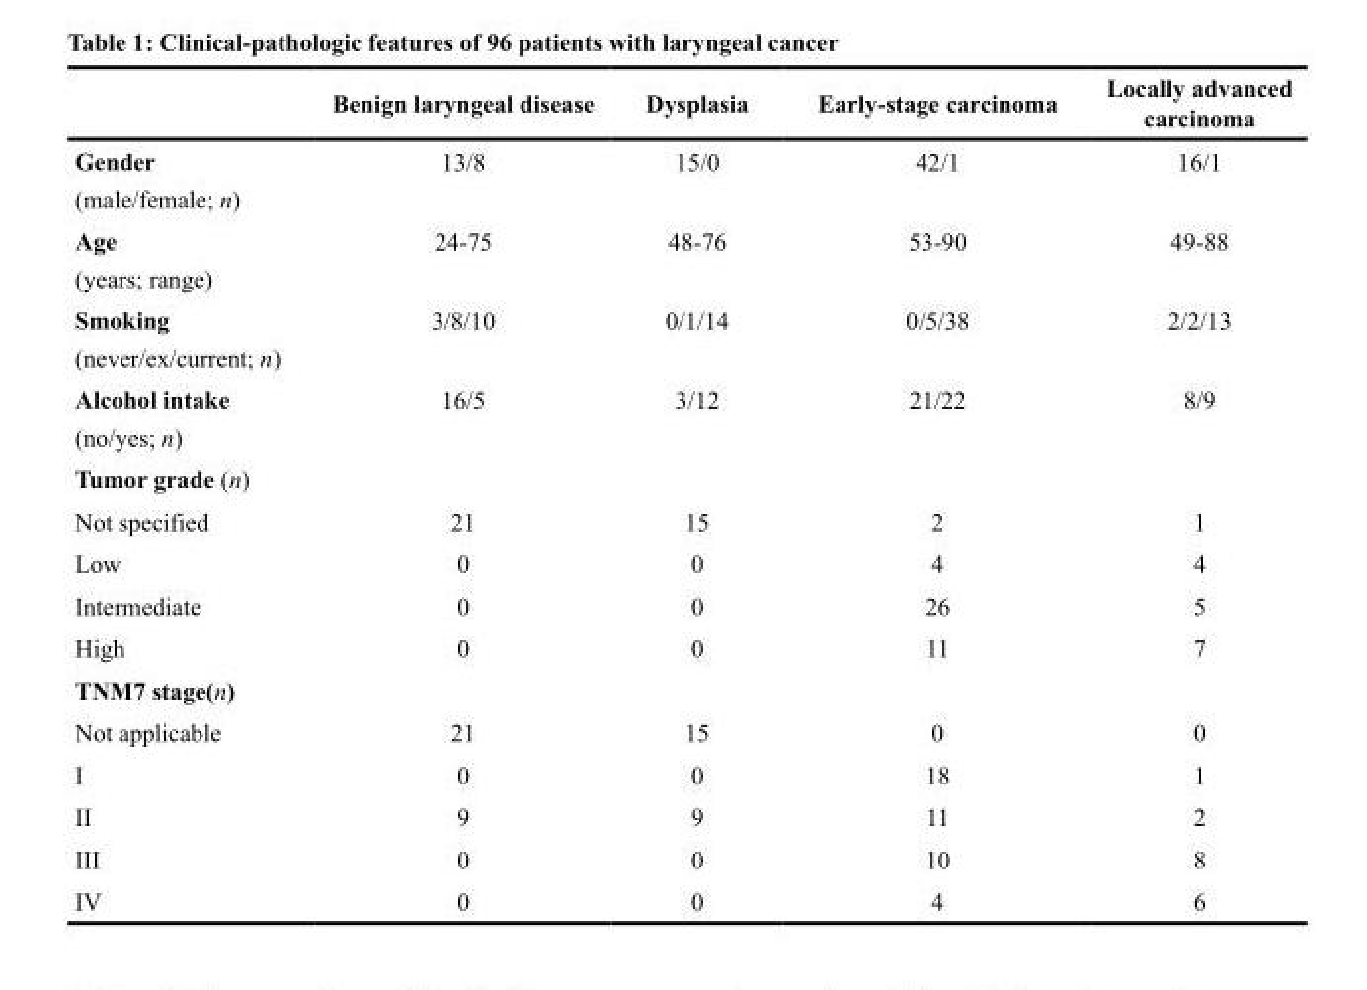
<table><thead><tr><td></td><td>Benign laryngeal disease</td><td>Dysplasia</td><td>Early-stage carcinoma</td><td>Locally advanced carcinoma</td></tr></thead><tbody><tr><td>Gender (male/female; n)</td><td>13/8</td><td>15/0</td><td>42/1</td><td>16/1</td></tr><tr><td>Age (years; range)</td><td>24-75</td><td>48-76</td><td>53-90</td><td>49-88</td></tr><tr><td>Smoking (never/ex/current; n)</td><td>3/8/10</td><td>0/1/14</td><td>0/5/38</td><td>2/2/13</td></tr><tr><td>Alcohol intake (no/yes; n)</td><td>16/5</td><td>3/12</td><td>21/22</td><td>8/9</td></tr><tr><td colspan="5">Tumor grade (n)</td></tr><tr><td>Not specified</td><td>21</td><td>15</td><td>2</td><td>1</td></tr><tr><td>Low</td><td>0</td><td>0</td><td>4</td><td>4</td></tr><tr><td>Intermediate</td><td>0</td><td>0</td><td>26</td><td>5</td></tr><tr><td>High</td><td>0</td><td>0</td><td>11</td><td>7</td></tr><tr><td colspan="5">TNM7 stage(n)</td></tr><tr><td>Not applicable</td><td>21</td><td>15</td><td>0</td><td>0</td></tr><tr><td>I</td><td>0</td><td>0</td><td>18</td><td>1</td></tr><tr><td>II</td><td>9</td><td>9</td><td>11</td><td>2</td></tr><tr><td>III</td><td>0</td><td>0</td><td>10</td><td>8</td></tr><tr><td>IV</td><td>0</td><td>0</td><td>4</td><td>6</td></tr></tbody></table>